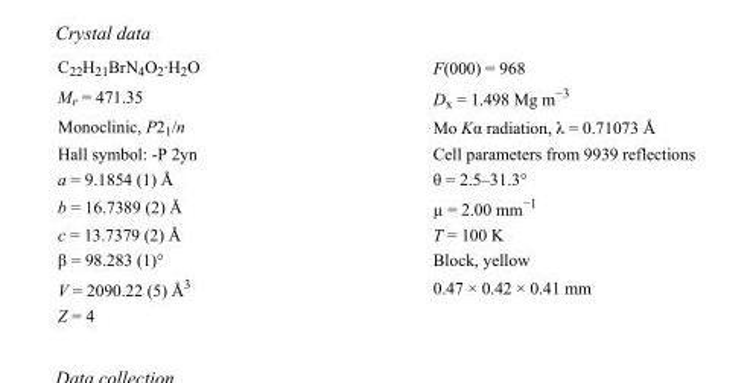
<table><tbody><tr><td>C<sub>22</sub>H<sub>21</sub>BrN<sub>4</sub>O<sub>2</sub>·H<sub>2</sub>O</td><td>F(000) = 968</td></tr><tr><td>M<sub>r</sub> = 471.35</td><td>D<sub>x</sub> = 1.498 Mg m<sup>−3</sup></td></tr><tr><td>Monoclinic, P2<sub>1</sub>/n</td><td>Mo Kα radiation, λ = 0.71073 Å</td></tr><tr><td>Hall symbol: -P 2yn</td><td>Cell parameters from 9939 reflections</td></tr><tr><td>a = 9.1854 (1) Å</td><td>θ = 2.5–31.3°</td></tr><tr><td>b = 16.7389 (2) Å</td><td>µ = 2.00 mm<sup>−1</sup></td></tr><tr><td>c = 13.7379 (2) Å</td><td>T = 100 K</td></tr><tr><td>β = 98.283 (1)°</td><td>Block, yellow</td></tr><tr><td>V = 2090.22 (5) Å<sup>3</sup></td><td>0.47 × 0.42 × 0.41 mm</td></tr><tr><td>Z = 4</td><td></td></tr></tbody></table>